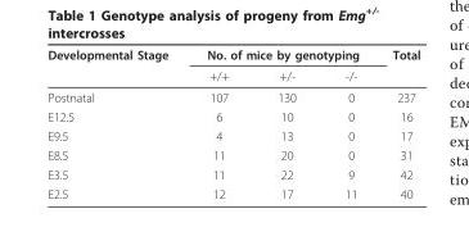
<table><thead><tr><td rowspan="2">Developmental Stage</td><td colspan="3">No. of mice by genotyping</td><td rowspan="2">Total</td></tr><tr><td>+/+</td><td>+/-</td><td>-/-</td></tr></thead><tbody><tr><td>Postnatal</td><td>107</td><td>130</td><td>0</td><td>237</td></tr><tr><td>E12.5</td><td>6</td><td>10</td><td>0</td><td>16</td></tr><tr><td>E9.5</td><td>4</td><td>13</td><td>0</td><td>17</td></tr><tr><td>E8.5</td><td>11</td><td>20</td><td>0</td><td>31</td></tr><tr><td>E3.5</td><td>11</td><td>22</td><td>9</td><td>42</td></tr><tr><td>E2.5</td><td>12</td><td>17</td><td>11</td><td>40</td></tr></tbody></table>